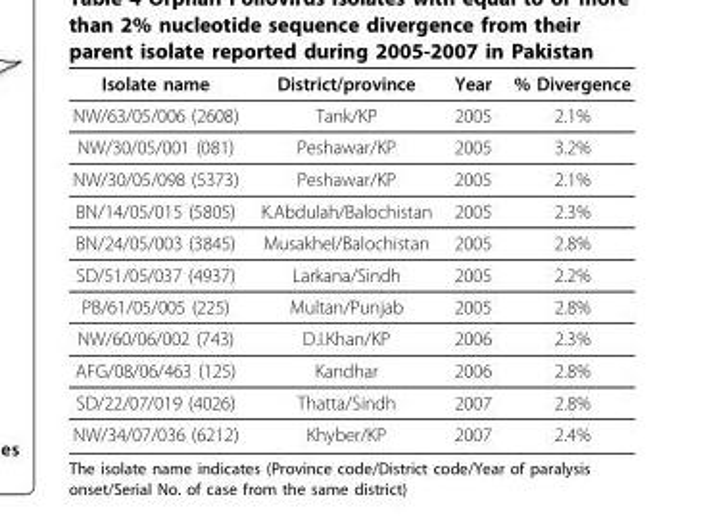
<table><thead><tr><td>Isolate name</td><td>District/province</td><td>Year</td><td>% Divergence</td></tr></thead><tbody><tr><td>NW/63/05/006 (2608)</td><td>Tank/KP</td><td>2005</td><td>2.1%</td></tr><tr><td>NW/30/05/001 (081)</td><td>Peshawar/KP</td><td>2005</td><td>3.2%</td></tr><tr><td>NW/30/05/098 (5373)</td><td>Peshawar/KP</td><td>2005</td><td>2.1%</td></tr><tr><td>BN/14/05/015 (5805)</td><td>K.Abdulah/Balochistan</td><td>2005</td><td>2.3%</td></tr><tr><td>BN/24/05/003 (3845)</td><td>Musakhel/Balochistan</td><td>2005</td><td>2.8%</td></tr><tr><td>SD/51/05/037 (4937)</td><td>Larkana/Sindh</td><td>2005</td><td>2.2%</td></tr><tr><td>PB/61/05/005 (225)</td><td>Multan/Punjab</td><td>2005</td><td>2.8%</td></tr><tr><td>NW/60/06/002 (743)</td><td>D.I.Khan/KP</td><td>2006</td><td>2.3%</td></tr><tr><td>AFG/08/06/463 (125)</td><td>Kandhar</td><td>2006</td><td>2.8%</td></tr><tr><td>SD/22/07/019 (4026)</td><td>Thatta/Sindh</td><td>2007</td><td>2.8%</td></tr><tr><td>NW/34/07/036 (6212)</td><td>Khyber/KP</td><td>2007</td><td>2.4%</td></tr></tbody></table>